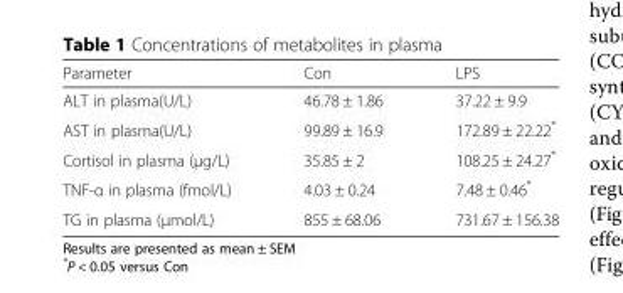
<table><thead><tr><td>Parameter</td><td>Con</td><td>LPS</td></tr></thead><tbody><tr><td>ALT in plasma(U/L)</td><td>46.78 ± 1.86</td><td>37.22 ± 9.9</td></tr><tr><td>AST in plasma(U/L)</td><td>99.89 ± 16.9</td><td>172.89 ± 22.22*</td></tr><tr><td>Cortisol in plasma (μg/L)</td><td>35.85 ± 2</td><td>108.25 ± 24.27*</td></tr><tr><td>TNF-α in plasma (fmol/L)</td><td>4.03 ± 0.24</td><td>7.48 ± 0.46*</td></tr><tr><td>TG in plasma (μmol/L)</td><td>855 ± 68.06</td><td>731.67 ± 156.38</td></tr></tbody></table>